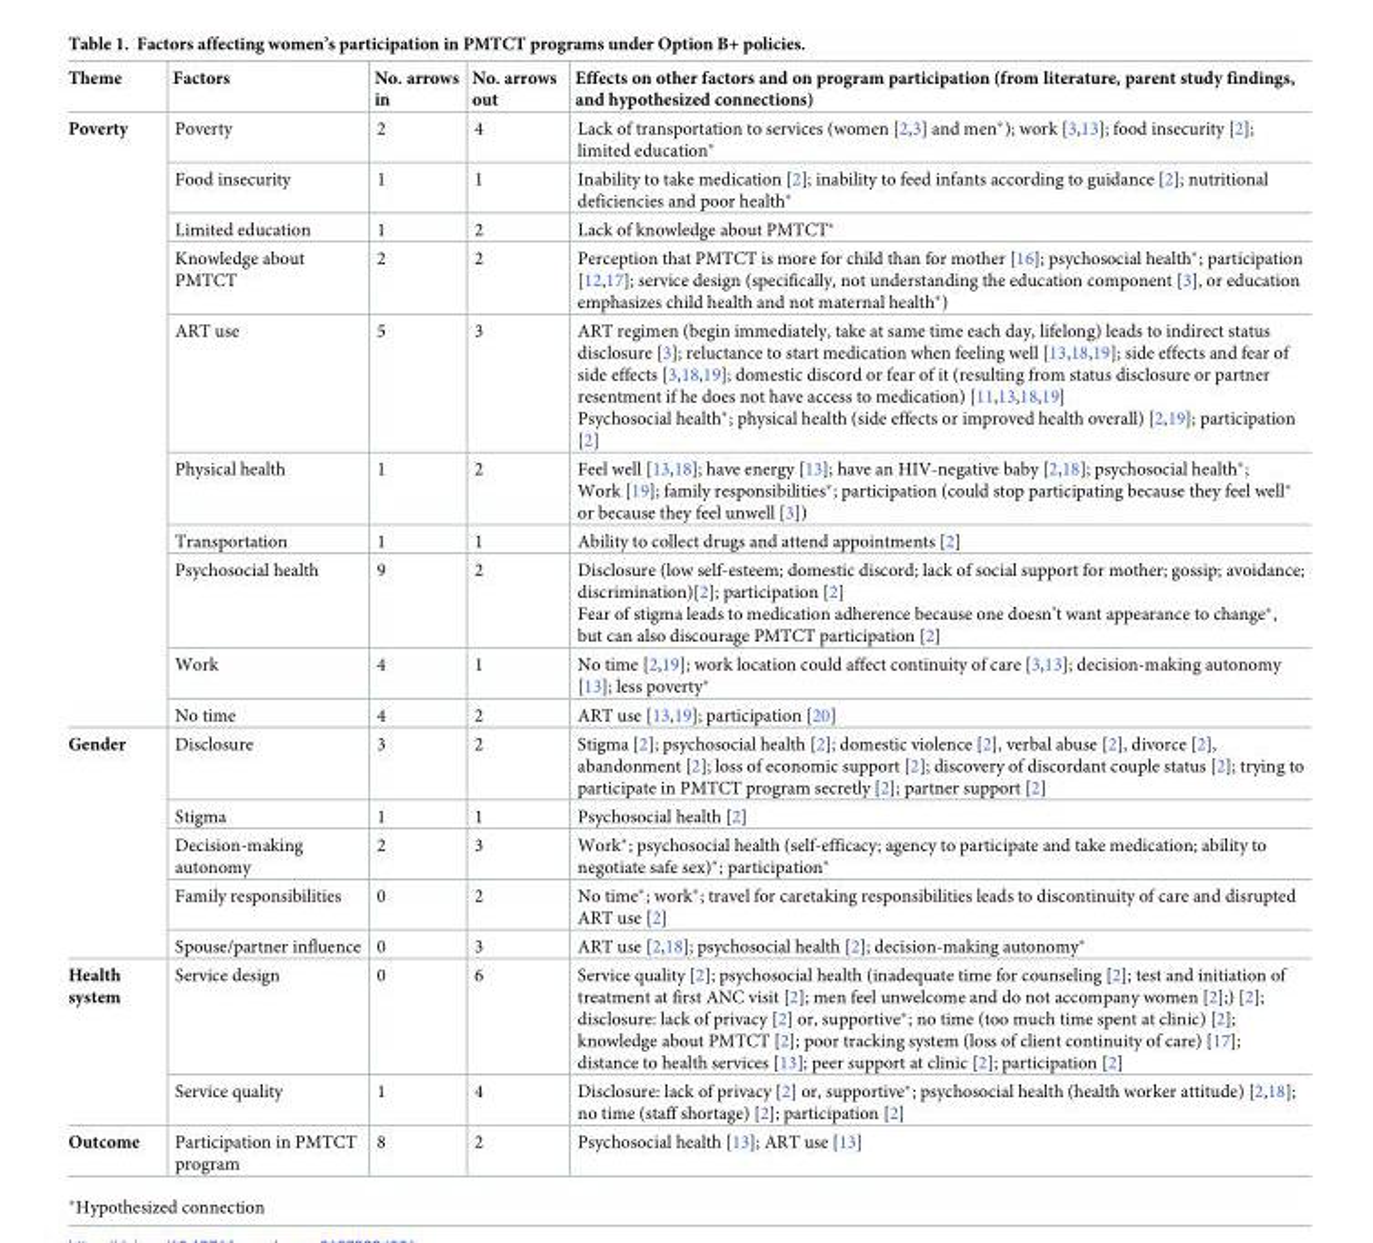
<table><thead><tr><td>Theme</td><td>Factors</td><td>No. arrows in</td><td>No. arrows out</td><td>Effects on other factors and on program participation (from literature, parent study findings, and hypothesized connections)</td></tr></thead><tbody><tr><td rowspan="10">Poverty</td><td>Poverty</td><td>2</td><td>4</td><td>Lack of transportation to services (women [2,3] and men*); work [3,13]; food insecurity [2]; limited education*</td></tr><tr><td>Food insecurity</td><td>1</td><td>1</td><td>Inability to take medication [2]; inability to feed infants according to guidance [2]; nutritional deficiencies and poor health*</td></tr><tr><td>Limited education</td><td>1</td><td>2</td><td>Lack of knowledge about PMTCT*</td></tr><tr><td>Knowledge about PMTCT</td><td>2</td><td>2</td><td>Perception that PMTCT is more for child than for mother [16]; psychosocial health*; participation [12,17]; service design (specifically, not understanding the education component [3], or education emphasizes child health and not maternal health*)</td></tr><tr><td>ART use</td><td>5</td><td>3</td><td>ART regimen (begin immediately, take at same time each day, lifelong) leads to indirect status disclosure [3]; reluctance to start medication when feeling well [13,18,19]; side effects and fear of side effects [3,18,19]; domestic discord or fear of it (resulting from status disclosure or partner resentment if he does not have access to medication) [11,13,18,19] Psychosocial health*; physical health (side effects or improved health overall) [2,19]; participation [2]</td></tr><tr><td>Physical health</td><td>1</td><td>2</td><td>Feel well [13,18]; have energy [13]; have an HIV-negative baby [2,18]; psychosocial health*; Work [19]; family responsibilities*; participation (could stop participating because they feel well* or because they feel unwell [3])</td></tr><tr><td>Transportation</td><td>1</td><td>1</td><td>Ability to collect drugs and attend appointments [2]</td></tr><tr><td>Psychosocial health</td><td>9</td><td>2</td><td>Disclosure (low self-esteem; domestic discord; lack of social support for mother; gossip; avoidance; discrimination)[2]; participation [2] Fear of stigma leads to medication adherence because one doesn’t want appearance to change*, but can also discourage PMTCT participation [2]</td></tr><tr><td>Work</td><td>4</td><td>1</td><td>No time [2,19]; work location could affect continuity of care [3,13]; decision-making autonomy [13]; less poverty*</td></tr><tr><td>No time</td><td>4</td><td>2</td><td>ART use [13,19]; participation [20]</td></tr><tr><td rowspan="5">Gender</td><td>Disclosure</td><td>3</td><td>2</td><td>Stigma [2]; psychosocial health [2]; domestic violence [2], verbal abuse [2], divorce [2], abandonment [2]; loss of economic support [2]; discovery of discordant couple status [2]; trying to participate in PMTCT program secretly [2]; partner support [2]</td></tr><tr><td>Stigma</td><td>1</td><td>1</td><td>Psychosocial health [2]</td></tr><tr><td>Decision-making autonomy</td><td>2</td><td>3</td><td>Work*; psychosocial health (self-efficacy; agency to participate and take medication; ability to negotiate safe sex)*; participation*</td></tr><tr><td>Family responsibilities</td><td>0</td><td>2</td><td>No time*; work*; travel for caretaking responsibilities leads to discontinuity of care and disrupted ART use [2]</td></tr><tr><td>Spouse/partner influence</td><td>0</td><td>3</td><td>ART use [2,18]; psychosocial health [2]; decision-making autonomy*</td></tr><tr><td rowspan="2">Health system</td><td>Service design</td><td>0</td><td>6</td><td>Service quality [2]; psychosocial health (inadequate time for counseling [2]; test and initiation of treatment at first ANC visit [2]; men feel unwelcome and do not accompany women [2];) [2]; disclosure: lack of privacy [2] or, supportive*; no time (too much time spent at clinic) [2]; knowledge about PMTCT [2]; poor tracking system (loss of client continuity of care) [17]; distance to health services [13]; peer support at clinic [2]; participation [2]</td></tr><tr><td>Service quality</td><td>1</td><td>4</td><td>Disclosure: lack of privacy [2] or, supportive*; psychosocial health (health worker attitude) [2,18]; no time (staff shortage) [2]; participation [2]</td></tr><tr><td>Outcome</td><td>Participation in PMTCT program</td><td>8</td><td>2</td><td>Psychosocial health [13]; ART use [13]</td></tr></tbody></table>